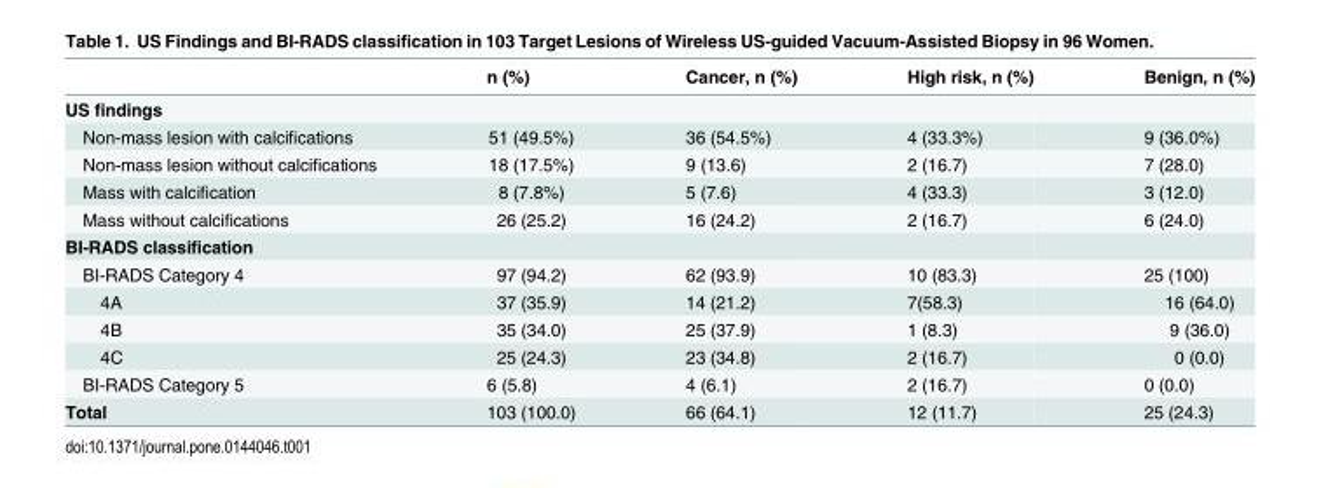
<table><thead><tr><td></td><td>n (%)</td><td>Cancer, n (%)</td><td>High risk, n (%)</td><td>Benign, n (%)</td></tr></thead><tbody><tr><td colspan="5">US findings</td></tr><tr><td>Non-mass lesion with calcifications</td><td>51 (49.5%)</td><td>36 (54.5%)</td><td>4 (33.3%)</td><td>9 (36.0%)</td></tr><tr><td>Non-mass lesion without calcifications</td><td>18 (17.5%)</td><td>9 (13.6)</td><td>2 (16.7)</td><td>7 (28.0)</td></tr><tr><td>Mass with calcification</td><td>8 (7.8%)</td><td>5 (7.6)</td><td>4 (33.3)</td><td>3 (12.0)</td></tr><tr><td>Mass without calcifications</td><td>26 (25.2)</td><td>16 (24.2)</td><td>2 (16.7)</td><td>6 (24.0)</td></tr><tr><td colspan="5">BI-RADS classification</td></tr><tr><td>BI-RADS Category 4</td><td>97 (94.2)</td><td>62 (93.9)</td><td>10 (83.3)</td><td>25 (100)</td></tr><tr><td>4A</td><td>37 (35.9)</td><td>14 (21.2)</td><td>7(58.3)</td><td>16 (64.0)</td></tr><tr><td>4B</td><td>35 (34.0)</td><td>25 (37.9)</td><td>1 (8.3)</td><td>9 (36.0)</td></tr><tr><td>4C</td><td>25 (24.3)</td><td>23 (34.8)</td><td>2 (16.7)</td><td>0 (0.0)</td></tr><tr><td>BI-RADS Category 5</td><td>6 (5.8)</td><td>4 (6.1)</td><td>2 (16.7)</td><td>0 (0.0)</td></tr><tr><td>Total</td><td>103 (100.0)</td><td>66 (64.1)</td><td>12 (11.7)</td><td>25 (24.3)</td></tr></tbody></table>